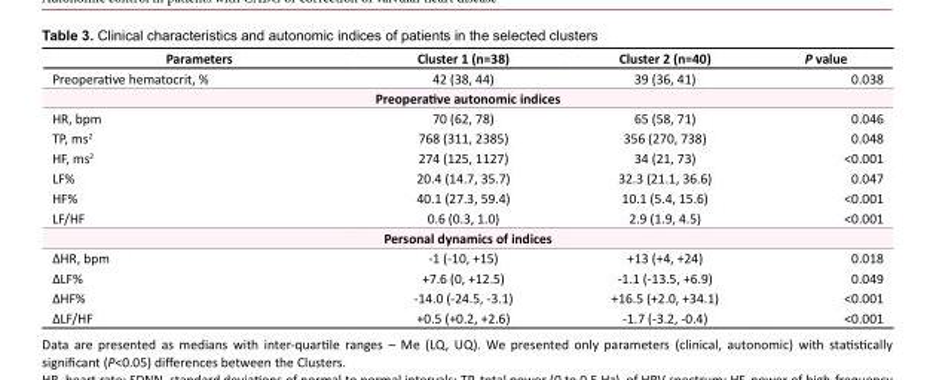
<table><tbody><tr><td>Parameters</td><td>Cluster 1 (n=38)</td><td>Cluster 2 (n=40)</td><td>P value</td></tr><tr><td>Preoperative hematocrit, %</td><td>42 (38, 44)</td><td>39 (36, 41)</td><td>0.038</td></tr><tr><td colspan="4">Preoperative autonomic indices</td></tr><tr><td>HR, bpm</td><td>70 (62, 78)</td><td>65 (58, 71)</td><td>0.046</td></tr><tr><td>TP, ms<sup>2</sup></td><td>768 (311, 2385)</td><td>356 (270, 738)</td><td>0.048</td></tr><tr><td>HF, ms<sup>2</sup></td><td>274 (125, 1127)</td><td>34 (21, 73)</td><td>&lt;0.001</td></tr><tr><td>LF%</td><td>20.4 (14.7, 35.7)</td><td>32.3 (21.1, 36.6)</td><td>0.047</td></tr><tr><td>HF%</td><td>40.1 (27.3, 59.4)</td><td>10.1 (5.4, 15.6)</td><td>&lt;0.001</td></tr><tr><td>LF/HF</td><td>0.6 (0.3, 1.0)</td><td>2.9 (1.9, 4.5)</td><td>&lt;0.001</td></tr><tr><td colspan="4">Personal dynamics of indices</td></tr><tr><td>ΔHR, bpm</td><td>-1 (-10, +15)</td><td>+13 (+4, +24)</td><td>0.018</td></tr><tr><td>ΔLF%</td><td>+7.6 (0, +12.5)</td><td>-1.1 (-13.5, +6.9)</td><td>0.049</td></tr><tr><td>ΔHF%</td><td>-14.0 (-24.5, -3.1)</td><td>+16.5 (+2.0, +34.1)</td><td>&lt;0.001</td></tr><tr><td>ΔLF/HF</td><td>+0.5 (+0.2, +2.6)</td><td>-1.7 (-3.2, -0.4)</td><td>&lt;0.001</td></tr></tbody></table>